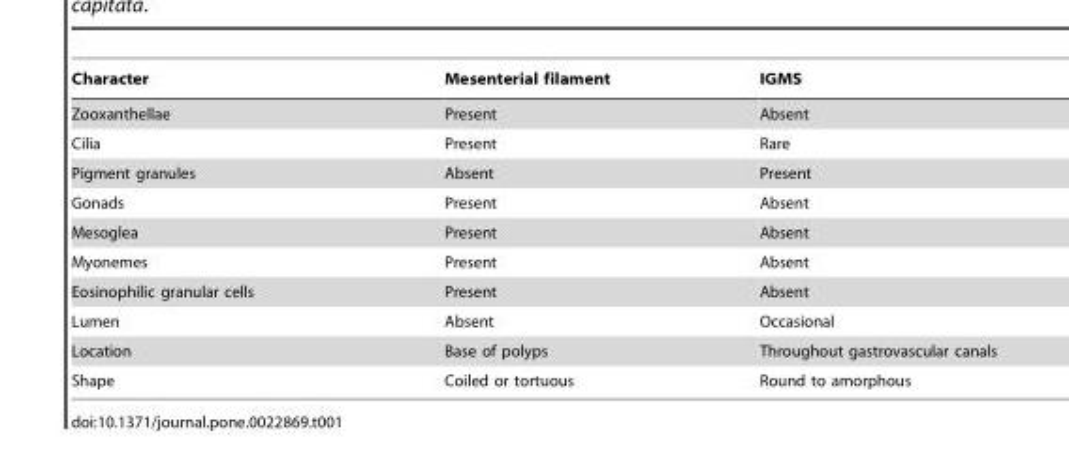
<table><thead><tr><td>Character</td><td>Mesenterial filament</td><td>IGMS</td></tr></thead><tbody><tr><td>Zooxanthellae</td><td>Present</td><td>Absent</td></tr><tr><td>Cilia</td><td>Present</td><td>Rare</td></tr><tr><td>Pigment granules</td><td>Absent</td><td>Present</td></tr><tr><td>Gonads</td><td>Present</td><td>Absent</td></tr><tr><td>Mesoglea</td><td>Present</td><td>Absent</td></tr><tr><td>Myonemes</td><td>Present</td><td>Absent</td></tr><tr><td>Eosinophilic granular cells</td><td>Present</td><td>Absent</td></tr><tr><td>Lumen</td><td>Absent</td><td>Occasional</td></tr><tr><td>Location</td><td>Base of polyps</td><td>Throughout gastrovascular canals</td></tr><tr><td>Shape</td><td>Coiled or tortuous</td><td>Round to amorphous</td></tr></tbody></table>